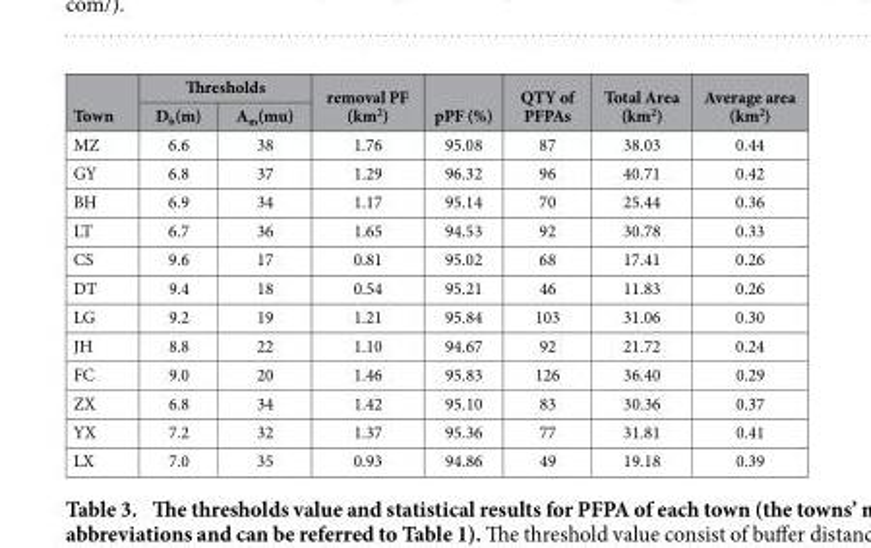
<table><thead><tr><td rowspan="2">Town</td><td colspan="2">Thresholds</td><td rowspan="2">removal PF (km<sup>2</sup>)</td><td rowspan="2">pPF (%)</td><td rowspan="2">QTY of PFPAs</td><td rowspan="2">Total Area (km<sup>2</sup>)</td><td rowspan="2">Average area (km<sup>2</sup>)</td></tr><tr><td>D<sub>b</sub>(m)</td><td>A<sub>m</sub>(mu)</td></tr></thead><tbody><tr><td>MZ</td><td>6.6</td><td>38</td><td>1.76</td><td>95.08</td><td>87</td><td>38.03</td><td>0.44</td></tr><tr><td>GY</td><td>6.8</td><td>37</td><td>1.29</td><td>96.32</td><td>96</td><td>40.71</td><td>0.42</td></tr><tr><td>BH</td><td>6.9</td><td>34</td><td>1.17</td><td>95.14</td><td>70</td><td>25.44</td><td>0.36</td></tr><tr><td>LT</td><td>6.7</td><td>36</td><td>1.65</td><td>94.53</td><td>92</td><td>30.78</td><td>0.33</td></tr><tr><td>CS</td><td>9.6</td><td>17</td><td>0.81</td><td>95.02</td><td>68</td><td>17.41</td><td>0.26</td></tr><tr><td>DT</td><td>9.4</td><td>18</td><td>0.54</td><td>95.21</td><td>46</td><td>11.83</td><td>0.26</td></tr><tr><td>LG</td><td>9.2</td><td>19</td><td>1.21</td><td>95.84</td><td>103</td><td>31.06</td><td>0.30</td></tr><tr><td>JH</td><td>8.8</td><td>22</td><td>1.10</td><td>94.67</td><td>92</td><td>21.72</td><td>0.24</td></tr><tr><td>FC</td><td>9.0</td><td>20</td><td>1.46</td><td>95.83</td><td>126</td><td>36.40</td><td>0.29</td></tr><tr><td>ZX</td><td>6.8</td><td>34</td><td>1.42</td><td>95.10</td><td>83</td><td>30.36</td><td>0.37</td></tr><tr><td>YX</td><td>7.2</td><td>32</td><td>1.37</td><td>95.36</td><td>77</td><td>31.81</td><td>0.41</td></tr><tr><td>LX</td><td>7.0</td><td>35</td><td>0.93</td><td>94.86</td><td>49</td><td>19.18</td><td>0.39</td></tr></tbody></table>